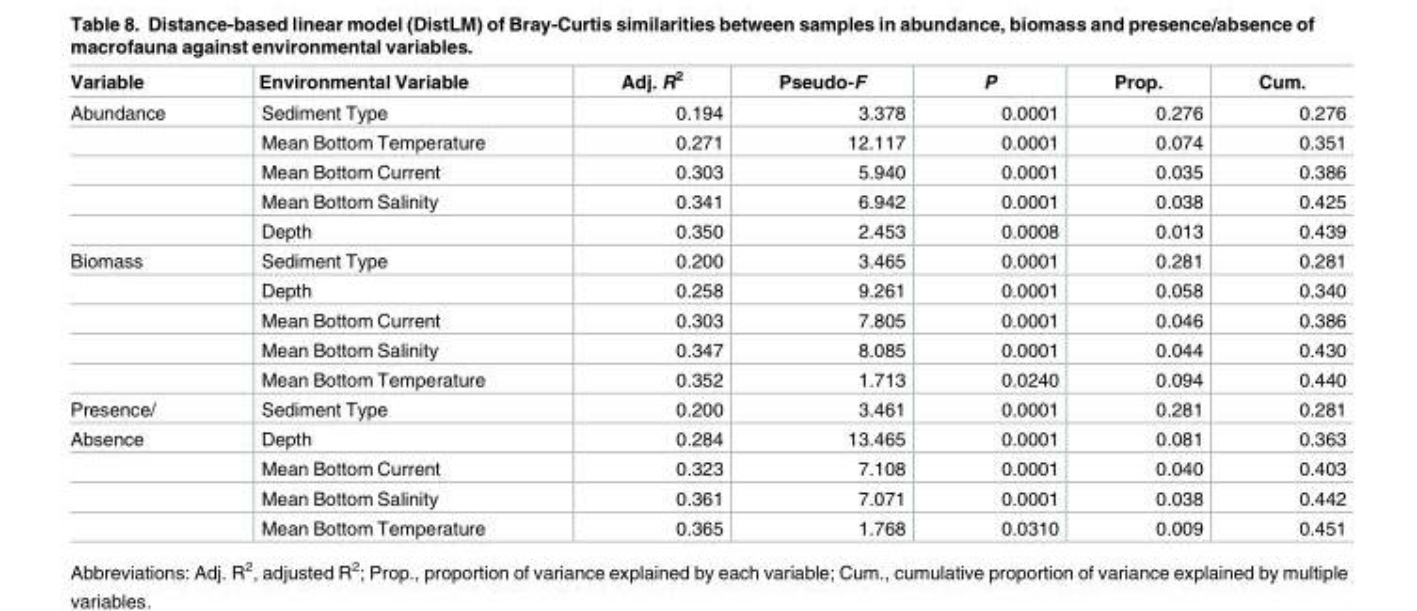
<table><thead><tr><td>Variable</td><td>Environmental Variable</td><td>Adj. R<sup>2</sup></td><td>Pseudo-F</td><td>P</td><td>Prop.</td><td>Cum.</td></tr></thead><tbody><tr><td rowspan="5">Abundance</td><td>Sediment Type</td><td>0.194</td><td>3.378</td><td>0.0001</td><td>0.276</td><td>0.276</td></tr><tr><td>Mean Bottom Temperature</td><td>0.271</td><td>12.117</td><td>0.0001</td><td>0.074</td><td>0.351</td></tr><tr><td>Mean Bottom Current</td><td>0.303</td><td>5.940</td><td>0.0001</td><td>0.035</td><td>0.386</td></tr><tr><td>Mean Bottom Salinity</td><td>0.341</td><td>6.942</td><td>0.0001</td><td>0.038</td><td>0.425</td></tr><tr><td>Depth</td><td>0.350</td><td>2.453</td><td>0.0008</td><td>0.013</td><td>0.439</td></tr><tr><td rowspan="5">Biomass</td><td>Sediment Type</td><td>0.200</td><td>3.465</td><td>0.0001</td><td>0.281</td><td>0.281</td></tr><tr><td>Depth</td><td>0.258</td><td>9.261</td><td>0.0001</td><td>0.058</td><td>0.340</td></tr><tr><td>Mean Bottom Current</td><td>0.303</td><td>7.805</td><td>0.0001</td><td>0.046</td><td>0.386</td></tr><tr><td>Mean Bottom Salinity</td><td>0.347</td><td>8.085</td><td>0.0001</td><td>0.044</td><td>0.430</td></tr><tr><td>Mean Bottom Temperature</td><td>0.352</td><td>1.713</td><td>0.0240</td><td>0.094</td><td>0.440</td></tr><tr><td>Presence/</td><td>Sediment Type</td><td>0.200</td><td>3.461</td><td>0.0001</td><td>0.281</td><td>0.281</td></tr><tr><td rowspan="4">Absence</td><td>Depth</td><td>0.284</td><td>13.465</td><td>0.0001</td><td>0.081</td><td>0.363</td></tr><tr><td>Mean Bottom Current</td><td>0.323</td><td>7.108</td><td>0.0001</td><td>0.040</td><td>0.403</td></tr><tr><td>Mean Bottom Salinity</td><td>0.361</td><td>7.071</td><td>0.0001</td><td>0.038</td><td>0.442</td></tr><tr><td>Mean Bottom Temperature</td><td>0.365</td><td>1.768</td><td>0.0310</td><td>0.009</td><td>0.451</td></tr></tbody></table>